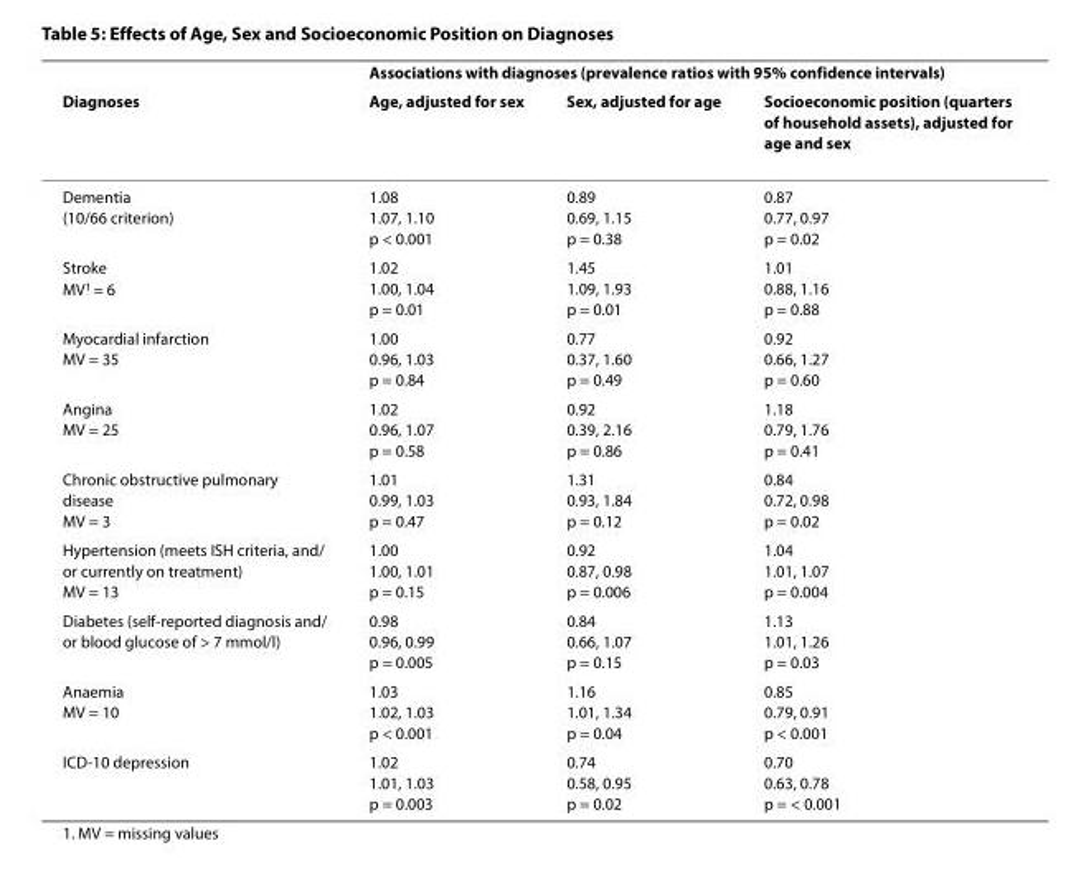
<table><thead><tr><td rowspan="2">Diagnoses</td><td colspan="3">Associations with diagnoses (prevalence ratios with 95% confidence intervals)</td></tr><tr><td>Age, adjusted for sex</td><td>Sex, adjusted for age</td><td>Socioeconomic position (quarters of household assets), adjusted for age and sex</td></tr></thead><tbody><tr><td>Dementia (10/66 criterion)</td><td>1.08 1.07, 1.10 p &lt; 0.001</td><td>0.89 0.69, 1.15 p = 0.38</td><td>0.87 0.77, 0.97 p = 0.02</td></tr><tr><td>Stroke MV<sup>1</sup> = 6</td><td>1.02 1.00, 1.04 p = 0.01</td><td>1.45 1.09, 1.93 p = 0.01</td><td>1.01 0.88, 1.16 p = 0.88</td></tr><tr><td>Myocardial infarction MV = 35</td><td>1.00 0.96, 1.03 p = 0.84</td><td>0.77 0.37, 1.60 p = 0.49</td><td>0.92 0.66, 1.27 p = 0.60</td></tr><tr><td>Angina MV = 25</td><td>1.02 0.96, 1.07 p = 0.58</td><td>0.92 0.39, 2.16 p = 0.86</td><td>1.18 0.79, 1.76 p = 0.41</td></tr><tr><td>Chronic obstructive pulmonary disease MV = 3</td><td>1.01 0.99, 1.03 p = 0.47</td><td>1.31 0.93, 1.84 p = 0.12</td><td>0.84 0.72, 0.98 p = 0.02</td></tr><tr><td>Hypertension (meets ISH criteria, and/ or currently on treatment) MV = 13</td><td>1.00 1.00, 1.01 p = 0.15</td><td>0.92 0.87, 0.98 p = 0.006</td><td>1.04 1.01, 1.07 p = 0.004</td></tr><tr><td>Diabetes (self-reported diagnosis and/ or blood glucose of &gt; 7 mmol/l)</td><td>0.98 0.96, 0.99 p = 0.005</td><td>0.84 0.66, 1.07 p = 0.15</td><td>1.13 1.01, 1.26 p = 0.03</td></tr><tr><td>Anaemia MV = 10</td><td>1.03 1.02, 1.03 p &lt; 0.001</td><td>1.16 1.01, 1.34 p = 0.04</td><td>0.85 0.79, 0.91 p &lt; 0.001</td></tr><tr><td>ICD-10 depression</td><td>1.02 1.01, 1.03 p = 0.003</td><td>0.74 0.58, 0.95 p = 0.02</td><td>0.70 0.63, 0.78 p = &lt; 0.001</td></tr></tbody></table>